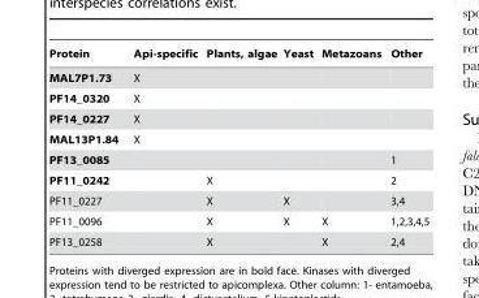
<table><thead><tr><td>Protein</td><td>Api-specific</td><td>Plants, algae</td><td>Yeast</td><td>Metazoans</td><td>Other</td></tr></thead><tbody><tr><td>MAL7P1.73</td><td>X</td><td></td><td></td><td></td><td></td></tr><tr><td>PF14_0320</td><td>X</td><td></td><td></td><td></td><td></td></tr><tr><td>PF14_0227</td><td>X</td><td></td><td></td><td></td><td></td></tr><tr><td>MAL13P1.84</td><td>X</td><td></td><td></td><td></td><td></td></tr><tr><td>PF13_0085</td><td></td><td></td><td></td><td></td><td>1</td></tr><tr><td>PF11_0242</td><td></td><td>X</td><td></td><td></td><td>2</td></tr><tr><td>PF11_0227</td><td></td><td>X</td><td>X</td><td></td><td>3,4</td></tr><tr><td>PF11_0096</td><td></td><td>X</td><td>X</td><td>X</td><td>1,2,3,4,5</td></tr><tr><td>PF13_0258</td><td></td><td>X</td><td></td><td>X</td><td>2,4</td></tr></tbody></table>